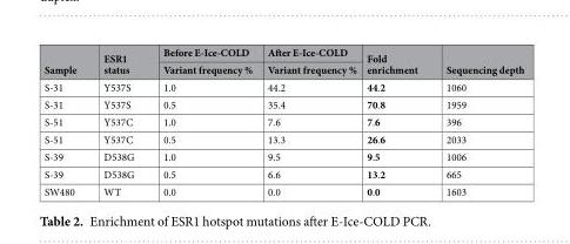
<table><thead><tr><td rowspan="2">Sample</td><td rowspan="2">ESR1 status</td><td rowspan="2">Before E-Ice-COLD Variant frequency %</td><td rowspan="2">After E-Ice-COLD Variant frequency %</td><td rowspan="2">Fold enrichment</td><td rowspan="2">Sequencing depth</td></tr><tr></tr></thead><tbody><tr><td>S-31</td><td>Y537S</td><td>1.0</td><td>44.2</td><td>44.2</td><td>1060</td></tr><tr><td>S-31</td><td>Y537S</td><td>0.5</td><td>35.4</td><td>70.8</td><td>1959</td></tr><tr><td>S-51</td><td>Y537C</td><td>1.0</td><td>7.6</td><td>7.6</td><td>396</td></tr><tr><td>S-51</td><td>Y537C</td><td>0.5</td><td>13.3</td><td>26.6</td><td>2033</td></tr><tr><td>S-39</td><td>D538G</td><td>1.0</td><td>9.5</td><td>9.5</td><td>1006</td></tr><tr><td>S-39</td><td>D538G</td><td>0.5</td><td>6.6</td><td>13.2</td><td>665</td></tr><tr><td>SW480</td><td>WT</td><td>0.0</td><td>0.0</td><td>0.0</td><td>1603</td></tr></tbody></table>